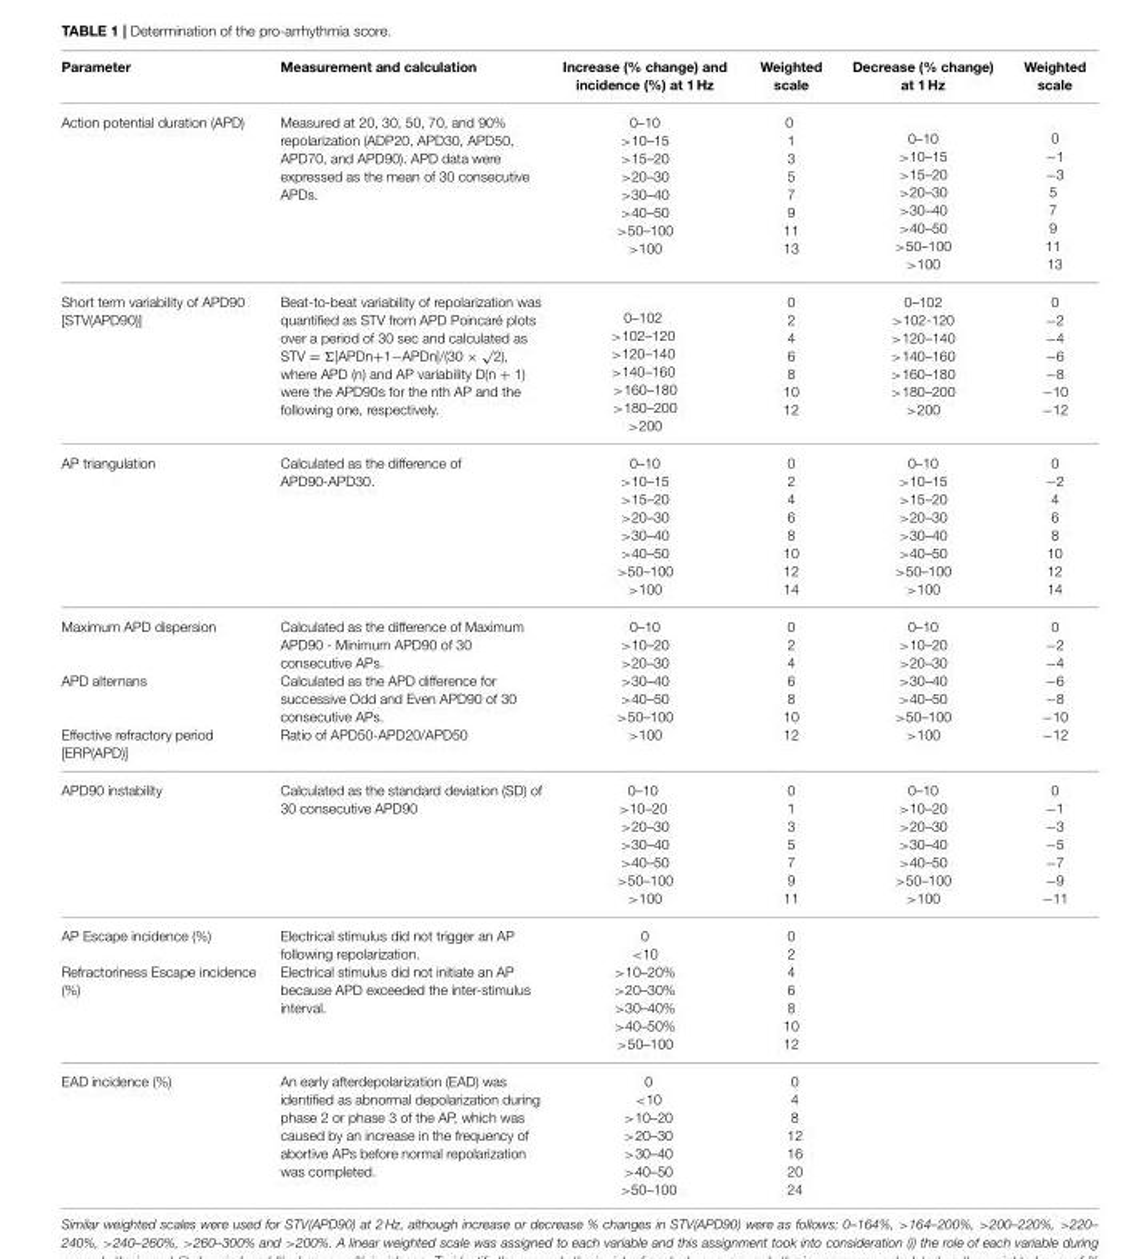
<table><thead><tr><td>Parameter</td><td>Measurement and calculation</td><td>Increase (% change) and incidence (%) at 1 Hz</td><td>Weighted scale</td><td>Decrease (% change) at 1 Hz</td><td>Weighted scale</td></tr></thead><tbody><tr><td>Action potential duration (APD)</td><td>Measured at 20, 30, 50, 70, and 90% repolarization (ADP20, APD30, APD50, APD70, and APD90). APD data were expressed as the mean of 30 consecutive APDs.</td><td>0–10 &gt;10–15 &gt;15–20 &gt;20–30 &gt;30–40 &gt;40–50 &gt;50–100 &gt;100</td><td>0 1 3 5 7 9 11 13</td><td>0–10 &gt;10–15 &gt;15–20 &gt;20–30 &gt;30–40 &gt;40–50 &gt;50–100 &gt;100</td><td>0 −1 −3 5 7 9 11 13</td></tr><tr><td>Short term variability of APD90 [STV(APD90)]</td><td>Beat-to-beat variability of repolarization was quantified as STV from APD Poincaré plots over a period of 30 sec and calculated as STV = Σ|APDn+1−APDn|/(30 × √2), where APD (n) and AP variability D(n + 1) were the APD90s for the nth AP and the following one, respectively.</td><td>0–102 &gt;102–120 &gt;120–140 &gt;140–160 &gt;160–180 &gt;180–200 &gt;200</td><td>0 2 4 6 8 10 12</td><td>0–102 &gt;102-120 &gt;120–140 &gt;140–160 &gt;160–180 &gt;180–200 &gt;200</td><td>0 −2 −4 −6 −8 −10 −12</td></tr><tr><td>AP triangulation</td><td>Calculated as the difference of APD90-APD30.</td><td>0–10 &gt;10–15 &gt;15–20 &gt;20–30 &gt;30–40 &gt;40–50 &gt;50–100 &gt;100</td><td>0 2 4 6 8 10 12 14</td><td>0–10 &gt;10–15 &gt;15–20 &gt;20–30 &gt;30–40 &gt;40–50 &gt;50–100 &gt;100</td><td>0 −2 4 6 8 10 12 14</td></tr><tr><td>Maximum APD dispersion APD alternans Effective refractory period [ERP(APD)]</td><td>Calculated as the difference of Maximum APD90 - Minimum APD90 of 30 consecutive APs. Calculated as the APD difference for successive Odd and Even APD90 of 30 consecutive APs. Ratio of APD50-APD20/APD50</td><td>0–10 &gt;10–20 &gt;20–30 &gt;30–40 &gt;40–50 &gt;50–100 &gt;100</td><td>0 2 4 6 8 10 12</td><td>0–10 &gt;10–20 &gt;20–30 &gt;30–40 &gt;40–50 &gt;50–100 &gt;100</td><td>0 −2 −4 −6 −8 −10 −12</td></tr><tr><td>APD90 instability</td><td>Calculated as the standard deviation (SD) of 30 consecutive APD90</td><td>0–10 &gt;10–20 &gt;20–30 &gt;30–40 &gt;40–50 &gt;50–100 &gt;100</td><td>0 1 3 5 7 9 11</td><td>0–10 &gt;10–20 &gt;20–30 &gt;30–40 &gt;40–50 &gt;50–100 &gt;100</td><td>0 −1 −3 −5 −7 −9 −11</td></tr><tr><td>AP Escape incidence (%) Refractoriness Escape incidence (%)</td><td>Electrical stimulus did not trigger an AP following repolarization. Electrical stimulus did not initiate an AP because APD exceeded the inter-stimulus interval.</td><td>0 &lt;10 &gt;10–20% &gt;20–30% &gt;30–40% &gt;40–50% &gt;50–100</td><td>0 2 4 6 8 10 12</td><td></td><td></td></tr><tr><td>EAD incidence (%)</td><td>An early afterdepolarization (EAD) was identified as abnormal depolarization during phase 2 or phase 3 of the AP, which was caused by an increase in the frequency of abortive APs before normal repolarization was completed.</td><td>0 &lt;10 &gt;10–20 &gt;20–30 &gt;30–40 &gt;40–50 &gt;50–100</td><td>0 4 8 12 16 20 24</td><td></td><td></td></tr></tbody></table>